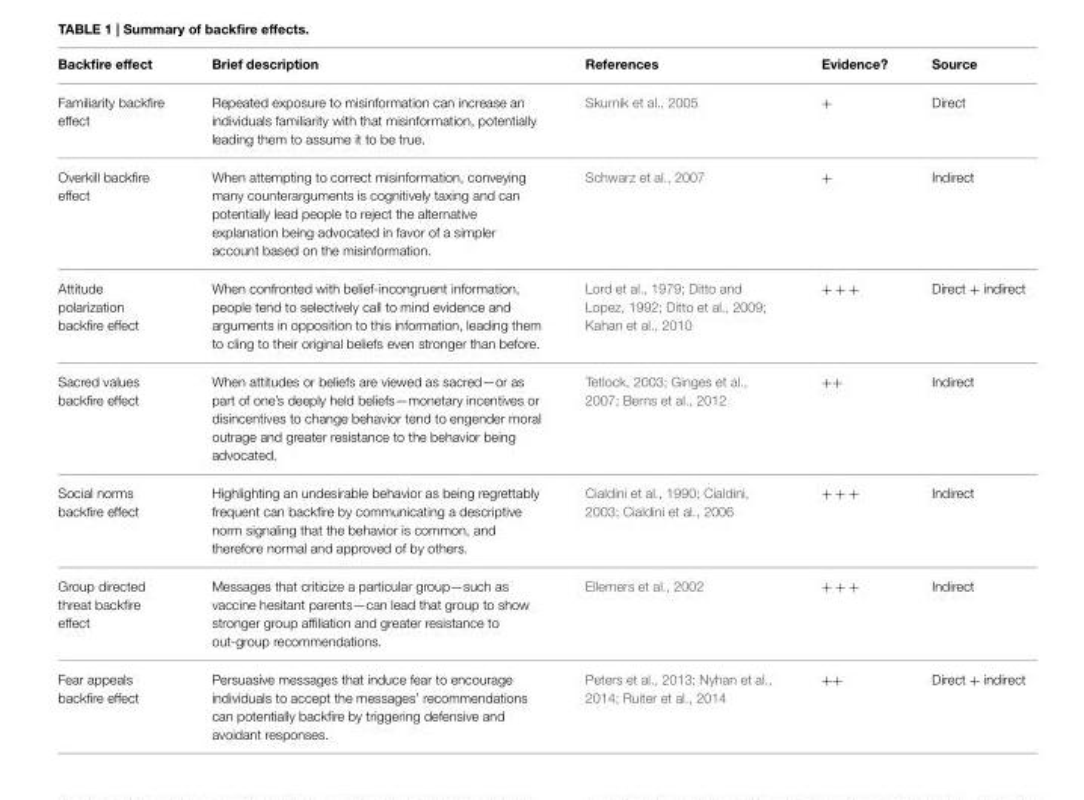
<table><thead><tr><td>Backfire effect</td><td>Brief description</td><td>References</td><td>Evidence?</td><td>Source</td></tr></thead><tbody><tr><td>Familiarity backfire effect</td><td>Repeated exposure to misinformation can increase an individuals familiarity with that misinformation, potentially leading them to assume it to be true.</td><td>Skurnik et al., 2005</td><td>+</td><td>Direct</td></tr><tr><td>Overkill backfire effect</td><td>When attempting to correct misinformation, conveying many counterarguments is cognitively taxing and can potentially lead people to reject the alternative explanation being advocated in favor of a simpler account based on the misinformation.</td><td>Schwarz et al., 2007</td><td>+</td><td>Indirect</td></tr><tr><td>Attitude polarization backfire effect</td><td>When confronted with belief-incongruent information, people tend to selectively call to mind evidence and arguments in opposition to this information, leading them to cling to their original beliefs even stronger than before.</td><td>Lord et al., 1979; Ditto and Lopez, 1992; Ditto et al., 2009; Kahan et al., 2010</td><td>+ + +</td><td>Direct + indirect</td></tr><tr><td>Sacred values backfire effect</td><td>When attitudes or beliefs are viewed as sacred—or as part of one’s deeply held beliefs—monetary incentives or disincentives to change behavior tend to engender moral outrage and greater resistance to the behavior being advocated.</td><td>Tetlock, 2003; Ginges et al., 2007; Berns et al., 2012</td><td>++</td><td>Indirect</td></tr><tr><td>Social norms backfire effect</td><td>Highlighting an undesirable behavior as being regrettably frequent can backfire by communicating a descriptive norm signaling that the behavior is common, and therefore normal and approved of by others.</td><td>Cialdini et al., 1990; Cialdini, 2003; Cialdini et al., 2006</td><td>+ + +</td><td>Indirect</td></tr><tr><td>Group directed threat backfire effect</td><td>Messages that criticize a particular group—such as vaccine hesitant parents—can lead that group to show stronger group affiliation and greater resistance to out-group recommendations.</td><td>Ellemers et al., 2002</td><td>+ + +</td><td>Indirect</td></tr><tr><td>Fear appeals backfire effect</td><td>Persuasive messages that induce fear to encourage individuals to accept the messages’ recommendations can potentially backfire by triggering defensive and avoidant responses.</td><td>Peters et al., 2013; Nyhan et al., 2014; Ruiter et al., 2014</td><td>++</td><td>Direct + indirect</td></tr></tbody></table>